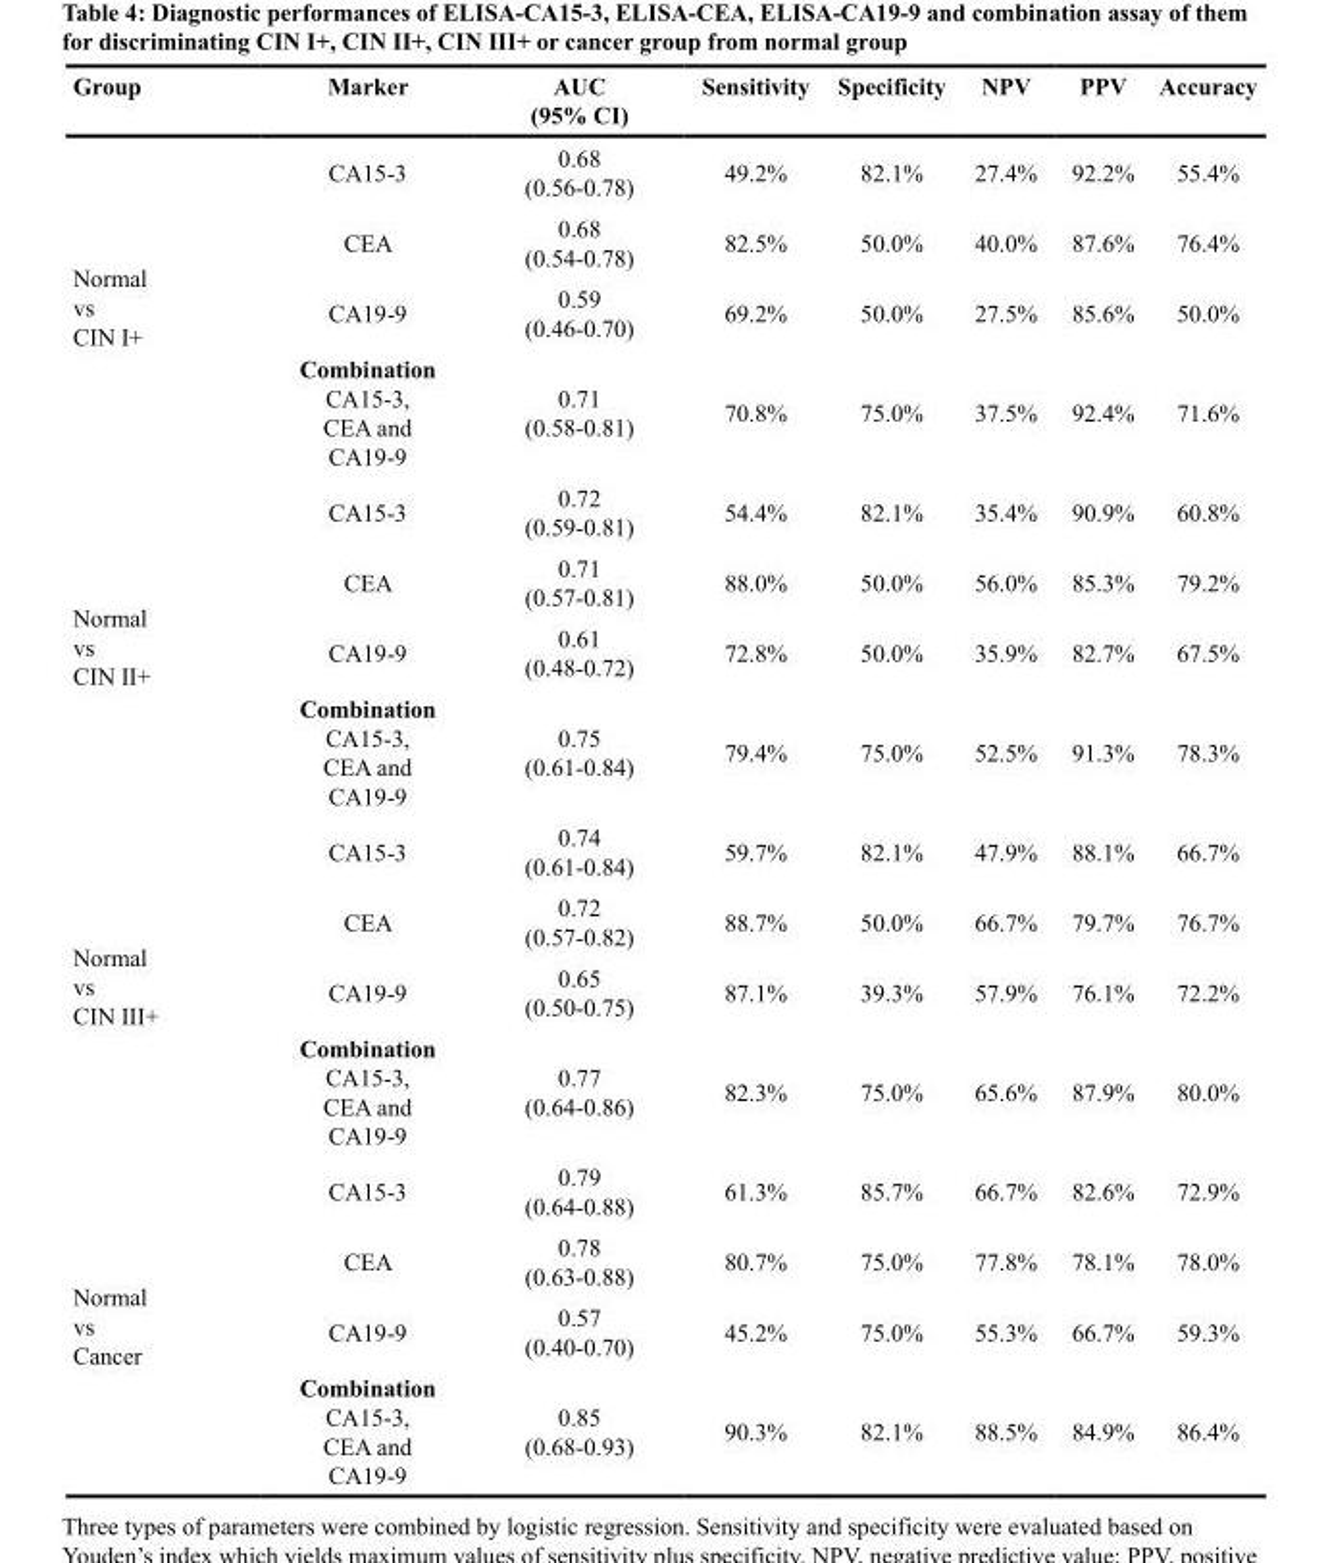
<table><thead><tr><td>Group</td><td>Marker</td><td>AUC (95% CI)</td><td>Sensitivity</td><td>Specificity</td><td>NPV</td><td>PPV</td><td>Accuracy</td></tr></thead><tbody><tr><td rowspan="4">Normal vs CIN I+</td><td>CA15-3</td><td>0.68 (0.56-0.78)</td><td>49.2%</td><td>82.1%</td><td>27.4%</td><td>92.2%</td><td>55.4%</td></tr><tr><td>CEA</td><td>0.68 (0.54-0.78)</td><td>82.5%</td><td>50.0%</td><td>40.0%</td><td>87.6%</td><td>76.4%</td></tr><tr><td>CA19-9</td><td>0.59 (0.46-0.70)</td><td>69.2%</td><td>50.0%</td><td>27.5%</td><td>85.6%</td><td>50.0%</td></tr><tr><td>Combination CA15-3, CEA and CA19-9</td><td>0.71 (0.58-0.81)</td><td>70.8%</td><td>75.0%</td><td>37.5%</td><td>92.4%</td><td>71.6%</td></tr><tr><td rowspan="4">Normal vs CIN II+</td><td>CA15-3</td><td>0.72 (0.59-0.81)</td><td>54.4%</td><td>82.1%</td><td>35.4%</td><td>90.9%</td><td>60.8%</td></tr><tr><td>CEA</td><td>0.71 (0.57-0.81)</td><td>88.0%</td><td>50.0%</td><td>56.0%</td><td>85.3%</td><td>79.2%</td></tr><tr><td>CA19-9</td><td>0.61 (0.48-0.72)</td><td>72.8%</td><td>50.0%</td><td>35.9%</td><td>82.7%</td><td>67.5%</td></tr><tr><td>Combination CA15-3, CEA and CA19-9</td><td>0.75 (0.61-0.84)</td><td>79.4%</td><td>75.0%</td><td>52.5%</td><td>91.3%</td><td>78.3%</td></tr><tr><td rowspan="4">Normal vs CIN III+</td><td>CA15-3</td><td>0.74 (0.61-0.84)</td><td>59.7%</td><td>82.1%</td><td>47.9%</td><td>88.1%</td><td>66.7%</td></tr><tr><td>CEA</td><td>0.72 (0.57-0.82)</td><td>88.7%</td><td>50.0%</td><td>66.7%</td><td>79.7%</td><td>76.7%</td></tr><tr><td>CA19-9</td><td>0.65 (0.50-0.75)</td><td>87.1%</td><td>39.3%</td><td>57.9%</td><td>76.1%</td><td>72.2%</td></tr><tr><td>Combination CA15-3, CEA and CA19-9</td><td>0.77 (0.64-0.86)</td><td>82.3%</td><td>75.0%</td><td>65.6%</td><td>87.9%</td><td>80.0%</td></tr><tr><td rowspan="4">Normal vs Cancer</td><td>CA15-3</td><td>0.79 (0.64-0.88)</td><td>61.3%</td><td>85.7%</td><td>66.7%</td><td>82.6%</td><td>72.9%</td></tr><tr><td>CEA</td><td>0.78 (0.63-0.88)</td><td>80.7%</td><td>75.0%</td><td>77.8%</td><td>78.1%</td><td>78.0%</td></tr><tr><td>CA19-9</td><td>0.57 (0.40-0.70)</td><td>45.2%</td><td>75.0%</td><td>55.3%</td><td>66.7%</td><td>59.3%</td></tr><tr><td>Combination CA15-3, CEA and CA19-9</td><td>0.85 (0.68-0.93)</td><td>90.3%</td><td>82.1%</td><td>88.5%</td><td>84.9%</td><td>86.4%</td></tr></tbody></table>